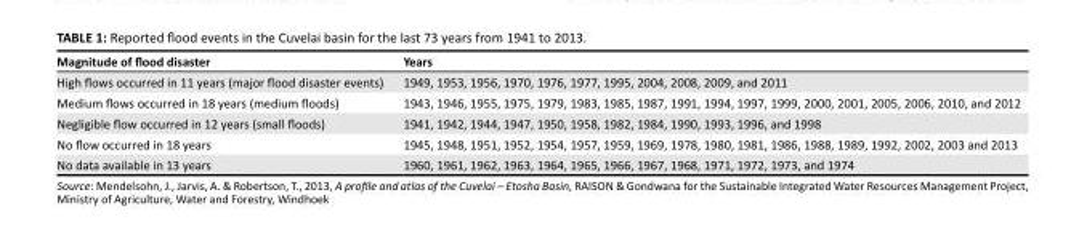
<table><thead><tr><td>Magnitude of flood disaster</td><td>Years</td></tr></thead><tbody><tr><td>High flows occurred in 11 years (major flood disaster events)</td><td>1949, 1953, 1956, 1970, 1976, 1977, 1995, 2004, 2008, 2009, and 2011</td></tr><tr><td>Medium flows occurred in 18 years (medium floods)</td><td>1943, 1946, 1955, 1975, 1979, 1983, 1985, 1987, 1991, 1994, 1997, 1999, 2000, 2001, 2005, 2006, 2010, and 2012</td></tr><tr><td>Negligible flow occurred in 12 years (small floods)</td><td>1941, 1942, 1944, 1947, 1950, 1958, 1982, 1984, 1990, 1993, 1996, and 1998</td></tr><tr><td>No flow occurred in 18 years</td><td>1945, 1948, 1951, 1952, 1954, 1957, 1959, 1969, 1978, 1980, 1981, 1986, 1988, 1989, 1992, 2002, 2003 and 2013</td></tr><tr><td>No data available in 13 years</td><td>1960, 1961, 1962, 1963, 1964, 1965, 1966, 1967, 1968, 1971, 1972, 1973, and 1974</td></tr></tbody></table>